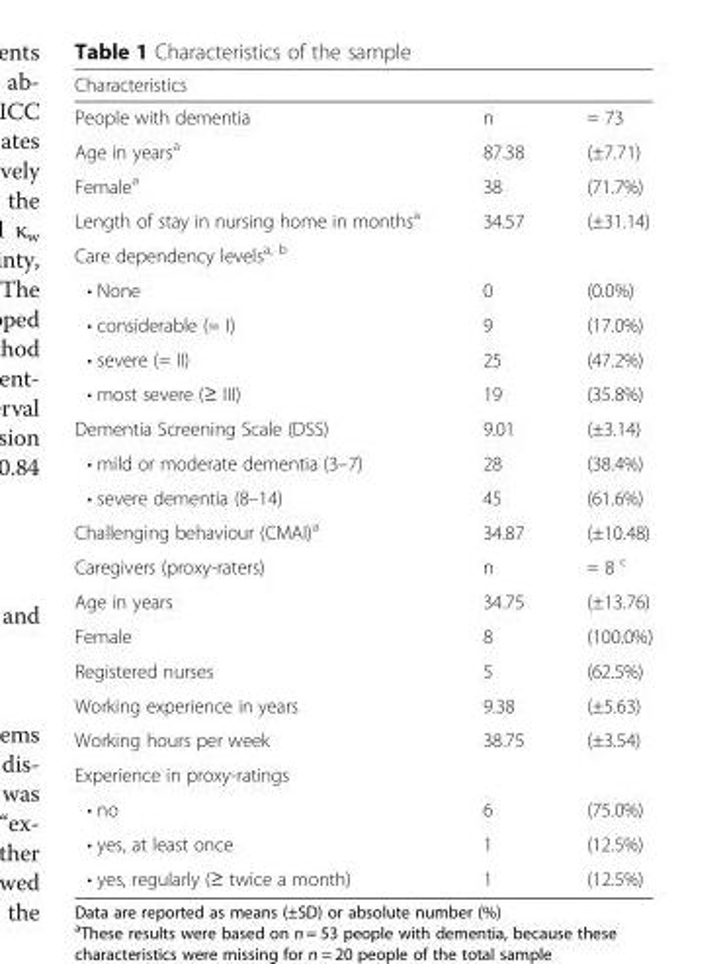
<table><thead><tr><td colspan="3">Characteristics</td></tr><tr><td>People with dementia</td><td>n</td><td>= 73</td></tr></thead><tbody><tr><td>Age in years<sup>a</sup></td><td>87.38</td><td>(±7.71)</td></tr><tr><td>Female<sup>a</sup></td><td>38</td><td>(71.7%)</td></tr><tr><td>Length of stay in nursing home in months<sup>a</sup></td><td>34.57</td><td>(±31.14)</td></tr><tr><td colspan="3">Care dependency levels<sup>a, b</sup></td></tr><tr><td>• None</td><td>0</td><td>(0.0%)</td></tr><tr><td>• considerable (= I)</td><td>9</td><td>(17.0%)</td></tr><tr><td>• severe (= II)</td><td>25</td><td>(47.2%)</td></tr><tr><td>• most severe (≥ III)</td><td>19</td><td>(35.8%)</td></tr><tr><td>Dementia Screening Scale (DSS)</td><td>9.01</td><td>(±3.14)</td></tr><tr><td>• mild or moderate dementia (3–7)</td><td>28</td><td>(38.4%)</td></tr><tr><td>• severe dementia (8–14)</td><td>45</td><td>(61.6%)</td></tr><tr><td>Challenging behaviour (CMAI)<sup>a</sup></td><td>34.87</td><td>(±10.48)</td></tr><tr><td>Caregivers (proxy-raters)</td><td>n</td><td>= 8 <sup>c</sup></td></tr><tr><td>Age in years</td><td>34.75</td><td>(±13.76)</td></tr><tr><td>Female</td><td>8</td><td>(100.0%)</td></tr><tr><td>Registered nurses</td><td>5</td><td>(62.5%)</td></tr><tr><td>Working experience in years</td><td>9.38</td><td>(±5.63)</td></tr><tr><td>Working hours per week</td><td>38.75</td><td>(±3.54)</td></tr><tr><td colspan="3">Experience in proxy-ratings</td></tr><tr><td>• no</td><td>6</td><td>(75.0%)</td></tr><tr><td>• yes, at least once</td><td>1</td><td>(12.5%)</td></tr><tr><td>• yes, regularly (≥ twice a month)</td><td>1</td><td>(12.5%)</td></tr></tbody></table>